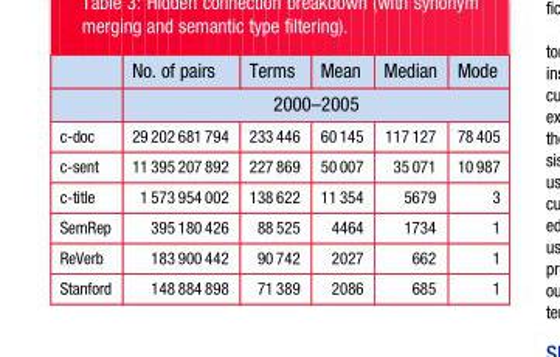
<table><thead><tr><td rowspan="2"></td><td>No. of pairs</td><td>Terms</td><td>Mean</td><td>Median</td><td>Mode</td></tr><tr><td colspan="5">2000–2005</td></tr></thead><tbody><tr><td>c-doc</td><td>29 202 681 794</td><td>233 446</td><td>60 145</td><td>117 127</td><td>78 405</td></tr><tr><td>c-sent</td><td>11 395 207 892</td><td>227 869</td><td>50 007</td><td>35 071</td><td>10 987</td></tr><tr><td>c-title</td><td>1 573 954 002</td><td>138 622</td><td>11 354</td><td>5679</td><td>3</td></tr><tr><td>SemRep</td><td>395 180 426</td><td>88 525</td><td>4464</td><td>1734</td><td>1</td></tr><tr><td>ReVerb</td><td>183 900 442</td><td>90 742</td><td>2027</td><td>662</td><td>1</td></tr><tr><td>Stanford</td><td>148 884 898</td><td>71 389</td><td>2086</td><td>685</td><td>1</td></tr></tbody></table>